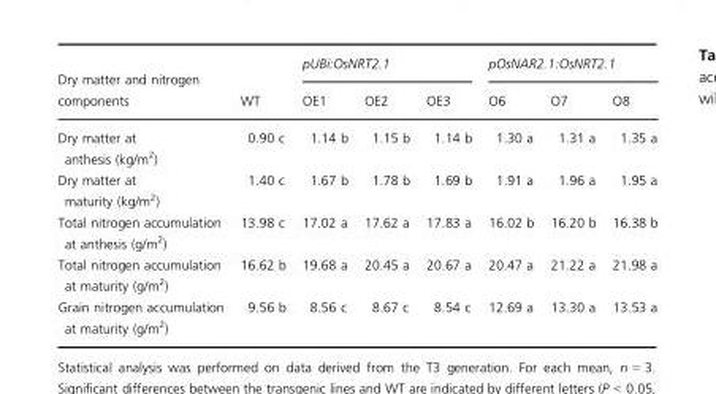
<table><thead><tr><td rowspan="2">Dry matter and nitrogen components</td><td rowspan="2">WT</td><td colspan="3">pUBi:OsNRT2.1</td><td colspan="3">pOsNAR2.1:OsNRT2.1</td></tr><tr><td>OE1</td><td>OE2</td><td>OE3</td><td>O6</td><td>O7</td><td>O8</td></tr></thead><tbody><tr><td>Dry matter at anthesis (kg/m<sup>2</sup>)</td><td>0.90 c</td><td>1.14 b</td><td>1.15 b</td><td>1.14 b</td><td>1.30 a</td><td>1.31 a</td><td>1.35 a</td></tr><tr><td>Dry matter at maturity (kg/m<sup>2</sup>)</td><td>1.40 c</td><td>1.67 b</td><td>1.78 b</td><td>1.69 b</td><td>1.91 a</td><td>1.96 a</td><td>1.95 a</td></tr><tr><td>Total nitrogen accumulation at anthesis (g/m<sup>2</sup>)</td><td>13.98 c</td><td>17.02 a</td><td>17.62 a</td><td>17.83 a</td><td>16.02 b</td><td>16.20 b</td><td>16.38 b</td></tr><tr><td>Total nitrogen accumulation at maturity (g/m<sup>2</sup>)</td><td>16.62 b</td><td>19.68 a</td><td>20.45 a</td><td>20.67 a</td><td>20.47 a</td><td>21.22 a</td><td>21.98 a</td></tr><tr><td>Grain nitrogen accumulation at maturity (g/m<sup>2</sup>)</td><td>9.56 b</td><td>8.56 c</td><td>8.67 c</td><td>8.54 c</td><td>12.69 a</td><td>13.30 a</td><td>13.53 a</td></tr></tbody></table>